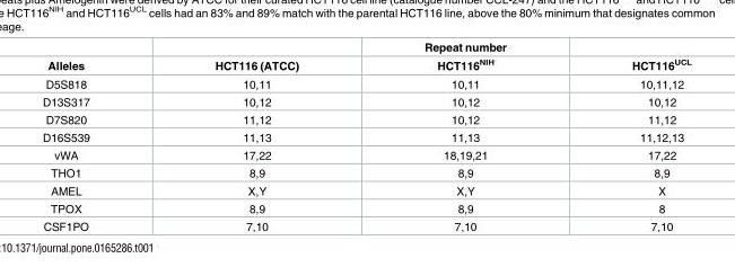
<table><thead><tr><td rowspan="2">Alleles</td><td rowspan="2">HCT116 (ATCC)</td><td rowspan="2">Repeat number HCT116<sup>NIH</sup></td><td rowspan="2">HCT116<sup>UCL</sup></td></tr><tr></tr></thead><tbody><tr><td>D5S818</td><td>10,11</td><td>10,11</td><td>10,11,12</td></tr><tr><td>D13S317</td><td>10,12</td><td>10,12</td><td>10,12</td></tr><tr><td>D7S820</td><td>11,12</td><td>10,12</td><td>11,12</td></tr><tr><td>D16S539</td><td>11,13</td><td>11,13</td><td>11,12,13</td></tr><tr><td>vWA</td><td>17,22</td><td>18,19,21</td><td>17,22</td></tr><tr><td>THO1</td><td>8,9</td><td>8,9</td><td>8,9</td></tr><tr><td>AMEL</td><td>X,Y</td><td>X,Y</td><td>X</td></tr><tr><td>TPOX</td><td>8,9</td><td>8,9</td><td>8</td></tr><tr><td>CSF1PO</td><td>7,10</td><td>7,10</td><td>7,10</td></tr></tbody></table>